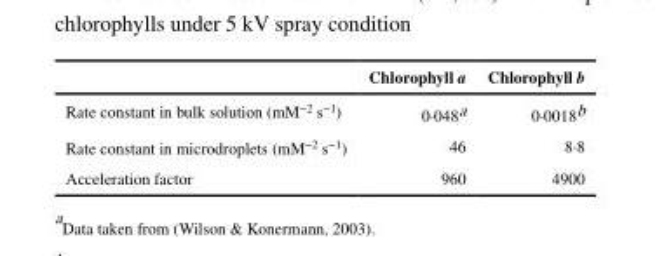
<table><thead><tr><td></td><td>Chlorophyll a</td><td>Chlorophyll b</td></tr></thead><tbody><tr><td>Rate constant in bulk solution (mM<sup>−2</sup> s<sup>−1</sup>)</td><td>0·048<sup>a</sup></td><td>0·0018<sup>b</sup></td></tr><tr><td>Rate constant in microdroplets (mM<sup>−2</sup> s<sup>−1</sup>)</td><td>46</td><td>8·8</td></tr><tr><td>Acceleration factor</td><td>960</td><td>4900</td></tr></tbody></table>